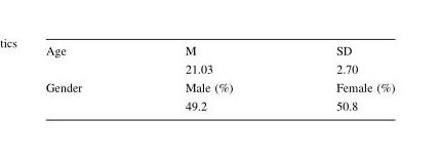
<table><tbody><tr><td rowspan="2">Age</td><td>M</td><td>SD</td></tr><tr><td>21.03</td><td>2.70</td></tr><tr><td rowspan="2">Gender</td><td>Male (%)</td><td>Female (%)</td></tr><tr><td>49.2</td><td>50.8</td></tr></tbody></table>